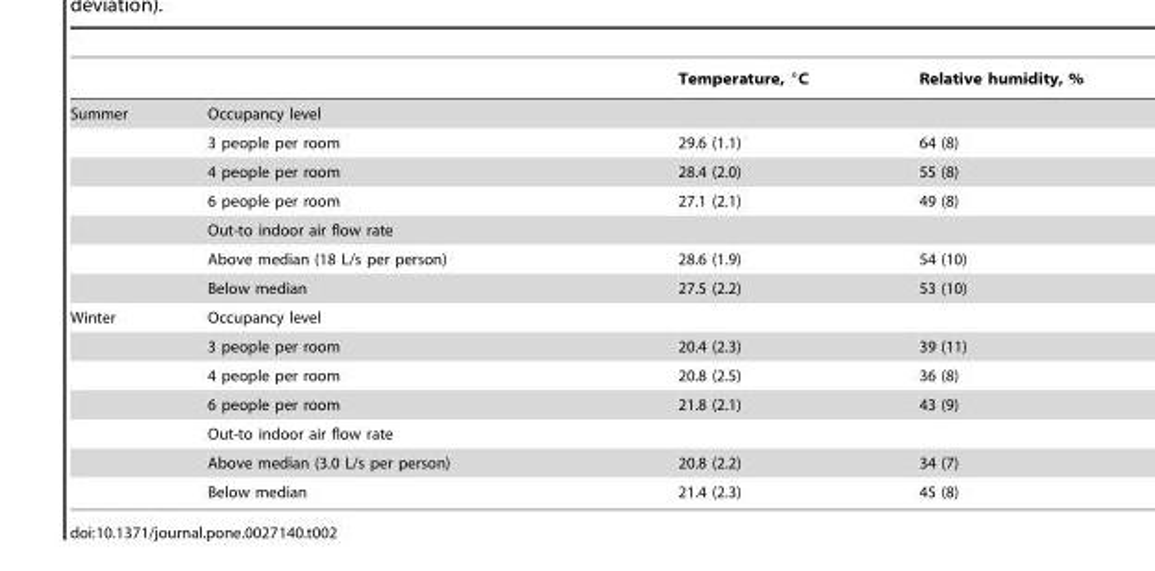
<table><thead><tr><td></td><td></td><td>Temperature, °C</td><td>Relative humidity, %</td></tr></thead><tbody><tr><td rowspan="7">Summer</td><td colspan="3">Occupancy level</td></tr><tr><td>3 people per room</td><td>29.6 (1.1)</td><td>64 (8)</td></tr><tr><td>4 people per room</td><td>28.4 (2.0)</td><td>55 (8)</td></tr><tr><td>6 people per room</td><td>27.1 (2.1)</td><td>49 (8)</td></tr><tr><td colspan="3">Out-to indoor air flow rate</td></tr><tr><td>Above median (18 L/s per person)</td><td>28.6 (1.9)</td><td>54 (10)</td></tr><tr><td>Below median</td><td>27.5 (2.2)</td><td>53 (10)</td></tr><tr><td rowspan="7">Winter</td><td colspan="3">Occupancy level</td></tr><tr><td>3 people per room</td><td>20.4 (2.3)</td><td>39 (11)</td></tr><tr><td>4 people per room</td><td>20.8 (2.5)</td><td>36 (8)</td></tr><tr><td>6 people per room</td><td>21.8 (2.1)</td><td>43 (9)</td></tr><tr><td colspan="3">Out-to indoor air flow rate</td></tr><tr><td>Above median (3.0 L/s per person)</td><td>20.8 (2.2)</td><td>34 (7)</td></tr><tr><td>Below median</td><td>21.4 (2.3)</td><td>45 (8)</td></tr></tbody></table>